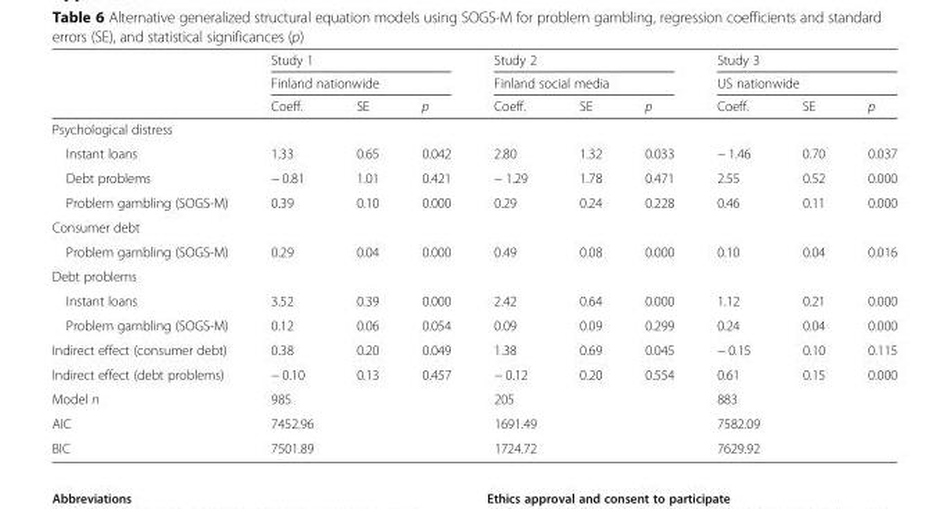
<table><thead><tr><td rowspan="3"></td><td rowspan="2" colspan="3">Study 1 Finland nationwide</td><td rowspan="2" colspan="3">Study 2 Finland social media</td><td rowspan="2" colspan="3">Study 3 US nationwide</td></tr><tr></tr><tr><td>Coeff.</td><td>SE</td><td>p</td><td>Coeff.</td><td>SE</td><td>p</td><td>Coeff.</td><td>SE</td><td>p</td></tr></thead><tbody><tr><td colspan="10">Psychological distress</td></tr><tr><td>Instant loans</td><td>1.33</td><td>0.65</td><td>0.042</td><td>2.80</td><td>1.32</td><td>0.033</td><td>− 1.46</td><td>0.70</td><td>0.037</td></tr><tr><td>Debt problems</td><td>− 0.81</td><td>1.01</td><td>0.421</td><td>− 1.29</td><td>1.78</td><td>0.471</td><td>2.55</td><td>0.52</td><td>0.000</td></tr><tr><td>Problem gambling (SOGS-M)</td><td>0.39</td><td>0.10</td><td>0.000</td><td>0.29</td><td>0.24</td><td>0.228</td><td>0.46</td><td>0.11</td><td>0.000</td></tr><tr><td colspan="10">Consumer debt</td></tr><tr><td>Problem gambling (SOGS-M)</td><td>0.29</td><td>0.04</td><td>0.000</td><td>0.49</td><td>0.08</td><td>0.000</td><td>0.10</td><td>0.04</td><td>0.016</td></tr><tr><td colspan="10">Debt problems</td></tr><tr><td>Instant loans</td><td>3.52</td><td>0.39</td><td>0.000</td><td>2.42</td><td>0.64</td><td>0.000</td><td>1.12</td><td>0.21</td><td>0.000</td></tr><tr><td>Problem gambling (SOGS-M)</td><td>0.12</td><td>0.06</td><td>0.054</td><td>0.09</td><td>0.09</td><td>0.299</td><td>0.24</td><td>0.04</td><td>0.000</td></tr><tr><td>Indirect effect (consumer debt)</td><td>0.38</td><td>0.20</td><td>0.049</td><td>1.38</td><td>0.69</td><td>0.045</td><td>− 0.15</td><td>0.10</td><td>0.115</td></tr><tr><td>Indirect effect (debt problems)</td><td>− 0.10</td><td>0.13</td><td>0.457</td><td>− 0.12</td><td>0.20</td><td>0.554</td><td>0.61</td><td>0.15</td><td>0.000</td></tr><tr><td>Model n</td><td>985</td><td></td><td></td><td>205</td><td></td><td></td><td>883</td><td></td><td></td></tr><tr><td>AIC</td><td>7452.96</td><td></td><td></td><td>1691.49</td><td></td><td></td><td>7582.09</td><td></td><td></td></tr><tr><td>BIC</td><td>7501.89</td><td></td><td></td><td>1724.72</td><td></td><td></td><td>7629.92</td><td></td><td></td></tr></tbody></table>